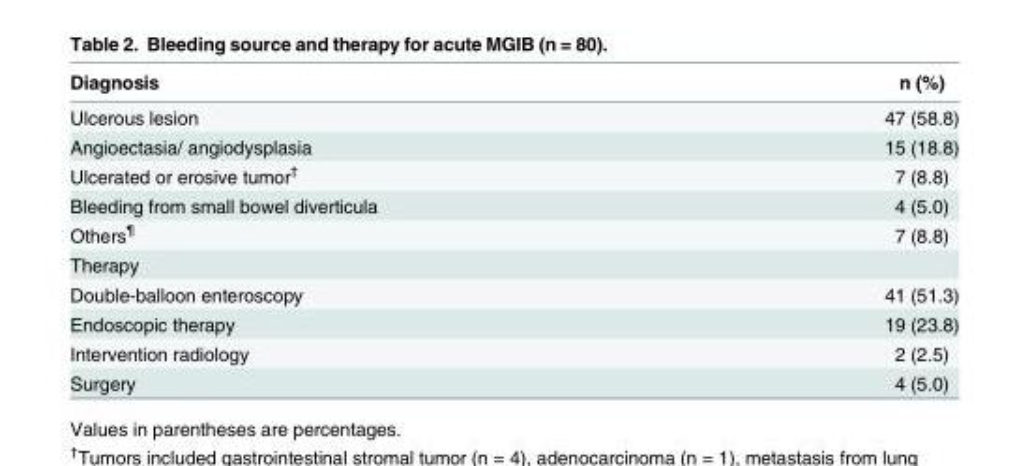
<table><thead><tr><td>Diagnosis</td><td>n (%)</td></tr></thead><tbody><tr><td>Ulcerous lesion</td><td>47 (58.8)</td></tr><tr><td>Angioectasia/ angiodysplasia</td><td>15 (18.8)</td></tr><tr><td>Ulcerated or erosive tumor<sup>†</sup></td><td>7 (8.8)</td></tr><tr><td>Bleeding from small bowel diverticula</td><td>4 (5.0)</td></tr><tr><td>Others<sup>¶</sup></td><td>7 (8.8)</td></tr><tr><td colspan="2">Therapy</td></tr><tr><td>Double-balloon enteroscopy</td><td>41 (51.3)</td></tr><tr><td>Endoscopic therapy</td><td>19 (23.8)</td></tr><tr><td>Intervention radiology</td><td>2 (2.5)</td></tr><tr><td>Surgery</td><td>4 (5.0)</td></tr></tbody></table>